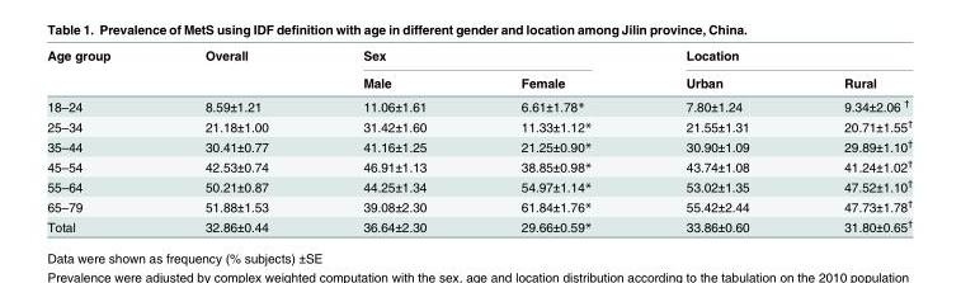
<table><thead><tr><td rowspan="2">Age group</td><td rowspan="2">Overall</td><td colspan="2">Sex</td><td colspan="2">Location</td></tr><tr><td>Male</td><td>Female</td><td>Urban</td><td>Rural</td></tr></thead><tbody><tr><td>18–24</td><td>8.59±1.21</td><td>11.06±1.61</td><td>6.61±1.78*</td><td>7.80±1.24</td><td>9.34±2.06 <sup>†</sup></td></tr><tr><td>25–34</td><td>21.18±1.00</td><td>31.42±1.60</td><td>11.33±1.12*</td><td>21.55±1.31</td><td>20.71±1.55<sup>†</sup></td></tr><tr><td>35–44</td><td>30.41±0.77</td><td>41.16±1.25</td><td>21.25±0.90*</td><td>30.90±1.09</td><td>29.89±1.10<sup>†</sup></td></tr><tr><td>45–54</td><td>42.53±0.74</td><td>46.91±1.13</td><td>38.85±0.98*</td><td>43.74±1.08</td><td>41.24±1.02<sup>†</sup></td></tr><tr><td>55–64</td><td>50.21±0.87</td><td>44.25±1.34</td><td>54.97±1.14*</td><td>53.02±1.35</td><td>47.52±1.10<sup>†</sup></td></tr><tr><td>65–79</td><td>51.88±1.53</td><td>39.08±2.30</td><td>61.84±1.76*</td><td>55.42±2.44</td><td>47.73±1.78<sup>†</sup></td></tr><tr><td>Total</td><td>32.86±0.44</td><td>36.64±2.30</td><td>29.66±0.59*</td><td>33.86±0.60</td><td>31.80±0.65<sup>†</sup></td></tr></tbody></table>